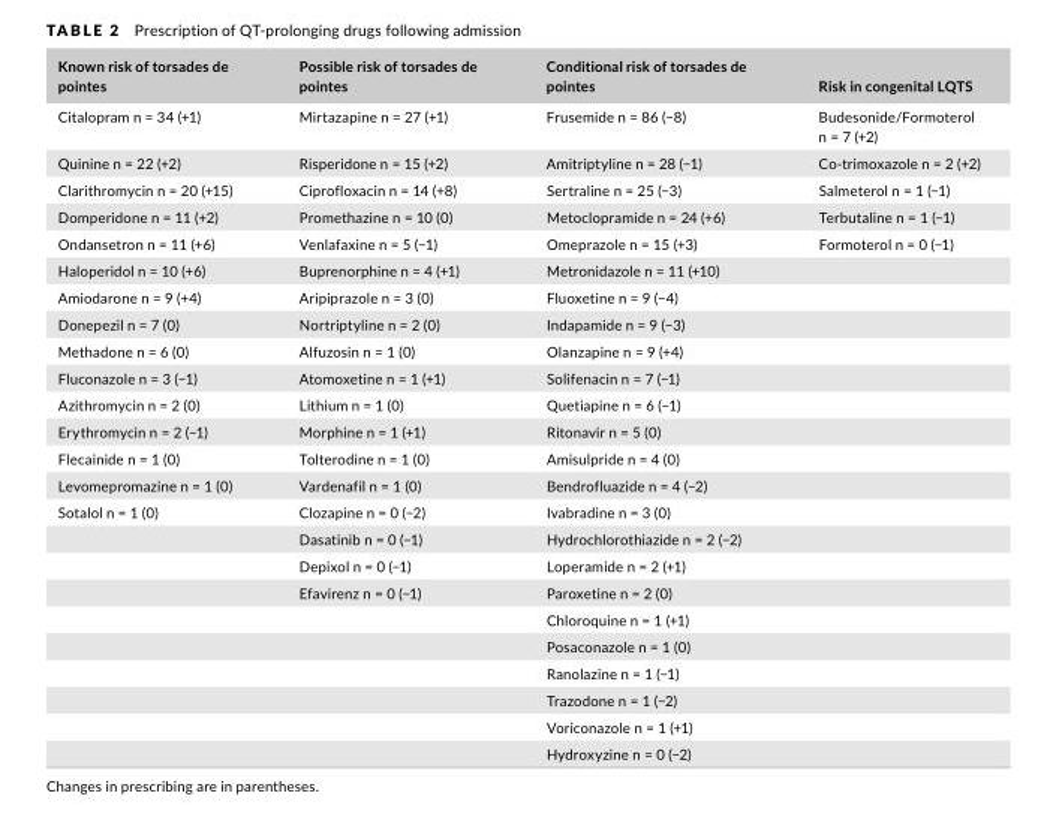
<table><thead><tr><td>Known risk of torsades de pointes</td><td>Possible risk of torsades de pointes</td><td>Conditional risk of torsades de pointes</td><td>Risk in congenital LQTS</td></tr></thead><tbody><tr><td>Citalopram n = 34 (+1)</td><td>Mirtazapine n = 27 (+1)</td><td>Frusemide n = 86 (−8)</td><td>Budesonide/Formoterol n = 7 (+2)</td></tr><tr><td>Quinine n = 22 (+2)</td><td>Risperidone n = 15 (+2)</td><td>Amitriptyline n = 28 (−1)</td><td>Co- trimoxazole n = 2 (+2)</td></tr><tr><td>Clarithromycin n = 20 (+15)</td><td>Ciprofloxacin n = 14 (+8)</td><td>Sertraline n = 25 (−3)</td><td>Salmeterol n = 1 (−1)</td></tr><tr><td>Domperidone n = 11 (+2)</td><td>Promethazine n = 10 (0)</td><td>Metoclopramide n = 24 (+6)</td><td>Terbutaline n = 1 (−1)</td></tr><tr><td>Ondansetron n = 11 (+6)</td><td>Venlafaxine n = 5 (−1)</td><td>Omeprazole n = 15 (+3)</td><td>Formoterol n = 0 (−1)</td></tr><tr><td>Haloperidol n = 10 (+6)</td><td>Buprenorphine n = 4 (+1)</td><td>Metronidazole n = 11 (+10)</td><td></td></tr><tr><td>Amiodarone n = 9 (+4)</td><td>Aripiprazole n = 3 (0)</td><td>Fluoxetine n = 9 (−4)</td><td></td></tr><tr><td>Donepezil n = 7 (0)</td><td>Nortriptyline n = 2 (0)</td><td>Indapamide n = 9 (−3)</td><td></td></tr><tr><td>Methadone n = 6 (0)</td><td>Alfuzosin n = 1 (0)</td><td>Olanzapine n = 9 (+4)</td><td></td></tr><tr><td>Fluconazole n = 3 (−1)</td><td>Atomoxetine n = 1 (+1)</td><td>Solifenacin n = 7 (−1)</td><td></td></tr><tr><td>Azithromycin n = 2 (0)</td><td>Lithium n = 1 (0)</td><td>Quetiapine n = 6 (−1)</td><td></td></tr><tr><td>Erythromycin n = 2 (−1)</td><td>Morphine n = 1 (+1)</td><td>Ritonavir n = 5 (0)</td><td></td></tr><tr><td>Flecainide n = 1 (0)</td><td>Tolterodine n = 1 (0)</td><td>Amisulpride n = 4 (0)</td><td></td></tr><tr><td>Levomepromazine n = 1 (0)</td><td>Vardenafil n = 1 (0)</td><td>Bendrofluazide n = 4 (−2)</td><td></td></tr><tr><td rowspan="10">Sotalol n = 1 (0)</td><td>Clozapine n = 0 (−2)</td><td>Ivabradine n = 3 (0)</td><td></td></tr><tr><td>Dasatinib n = 0 (−1)</td><td>Hydrochlorothiazide n = 2 (−2)</td><td></td></tr><tr><td>Depixol n = 0 (−1)</td><td>Loperamide n = 2 (+1)</td><td></td></tr><tr><td>Efavirenz n = 0 (−1)</td><td>Paroxetine n = 2 (0)</td><td></td></tr><tr><td></td><td>Chloroquine n = 1 (+1)</td><td></td></tr><tr><td></td><td>Posaconazole n = 1 (0)</td><td></td></tr><tr><td></td><td>Ranolazine n = 1 (−1)</td><td></td></tr><tr><td></td><td>Trazodone n = 1 (−2)</td><td></td></tr><tr><td></td><td>Voriconazole n = 1 (+1)</td><td></td></tr><tr><td></td><td>Hydroxyzine n = 0 (−2)</td><td></td></tr></tbody></table>